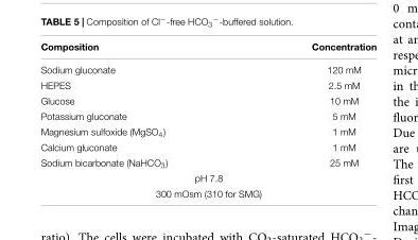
<table><thead><tr><td>Composition</td><td>Concentration</td></tr></thead><tbody><tr><td>Sodium gluconate</td><td>120 mM</td></tr><tr><td>HEPES</td><td>2.5 mM</td></tr><tr><td>Glucose</td><td>10 mM</td></tr><tr><td>Potassium gluconate</td><td>5 mM</td></tr><tr><td>Magnesium sulfoxide (MgSO<sub>4</sub>)</td><td>1 mM</td></tr><tr><td>Calcium gluconate</td><td>1 mM</td></tr><tr><td>Sodium bicarbonate (NaHCO<sub>3</sub>)</td><td>25 mM</td></tr><tr><td colspan="2">pH 7.8</td></tr><tr><td colspan="2">300 mOsm (310 for SMG)</td></tr></tbody></table>